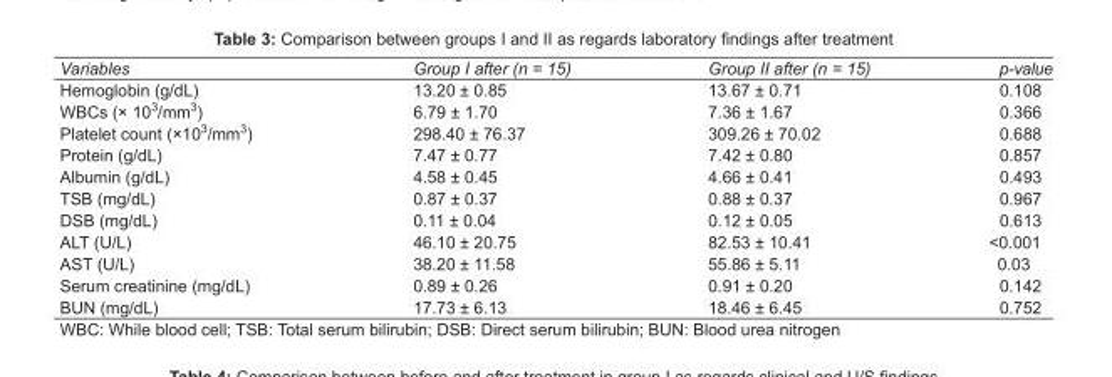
<table><tbody><tr><td>Variables</td><td>Group I after (n = 15)</td><td>Group II after (n = 15)</td><td>p-value</td></tr><tr><td>Hemoglobin (g/dL)</td><td>13.20 ± 0.85</td><td>13.67 ± 0.71</td><td>0.108</td></tr><tr><td>WBCs (× 10<sup>3</sup>/mm<sup>3</sup>)</td><td>6.79 ± 1.70</td><td>7.36 ± 1.67</td><td>0.366</td></tr><tr><td>Platelet count (×10<sup>3</sup>/mm<sup>3</sup>)</td><td>298.40 ± 76.37</td><td>309.26 ± 70.02</td><td>0.688</td></tr><tr><td>Protein (g/dL)</td><td>7.47 ± 0.77</td><td>7.42 ± 0.80</td><td>0.857</td></tr><tr><td>Albumin (g/dL)</td><td>4.58 ± 0.45</td><td>4.66 ± 0.41</td><td>0.493</td></tr><tr><td>TSB (mg/dL)</td><td>0.87 ± 0.37</td><td>0.88 ± 0.37</td><td>0.967</td></tr><tr><td>DSB (mg/dL)</td><td>0.11 ± 0.04</td><td>0.12 ± 0.05</td><td>0.613</td></tr><tr><td>ALT (U/L)</td><td>46.10 ± 20.75</td><td>82.53 ± 10.41</td><td>&lt;0.001</td></tr><tr><td>AST (U/L)</td><td>38.20 ± 11.58</td><td>55.86 ± 5.11</td><td>0.03</td></tr><tr><td>Serum creatinine (mg/dL)</td><td>0.89 ± 0.26</td><td>0.91 ± 0.20</td><td>0.142</td></tr><tr><td>BUN (mg/dL)</td><td>17.73 ± 6.13</td><td>18.46 ± 6.45</td><td>0.752</td></tr></tbody></table>